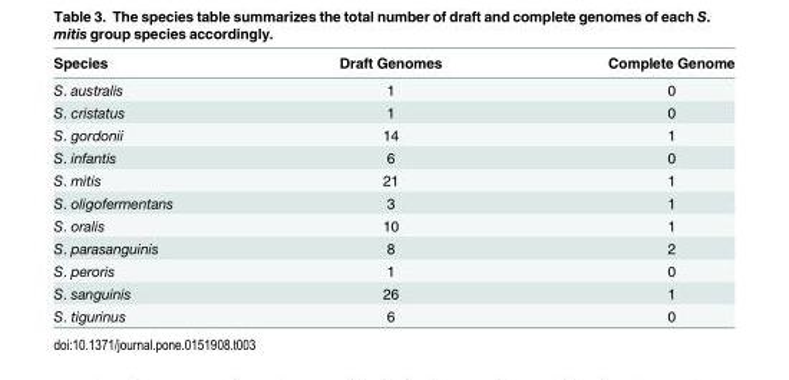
<table><thead><tr><td>Species</td><td>Draft Genomes</td><td>Complete Genome</td></tr></thead><tbody><tr><td>S. australis</td><td>1</td><td>0</td></tr><tr><td>S. cristatus</td><td>1</td><td>0</td></tr><tr><td>S. gordonii</td><td>14</td><td>1</td></tr><tr><td>S. infantis</td><td>6</td><td>0</td></tr><tr><td>S. mitis</td><td>21</td><td>1</td></tr><tr><td>S. oligofermentans</td><td>3</td><td>1</td></tr><tr><td>S. oralis</td><td>10</td><td>1</td></tr><tr><td>S. parasanguinis</td><td>8</td><td>2</td></tr><tr><td>S. peroris</td><td>1</td><td>0</td></tr><tr><td>S. sanguinis</td><td>26</td><td>1</td></tr><tr><td>S. tigurinus</td><td>6</td><td>0</td></tr></tbody></table>